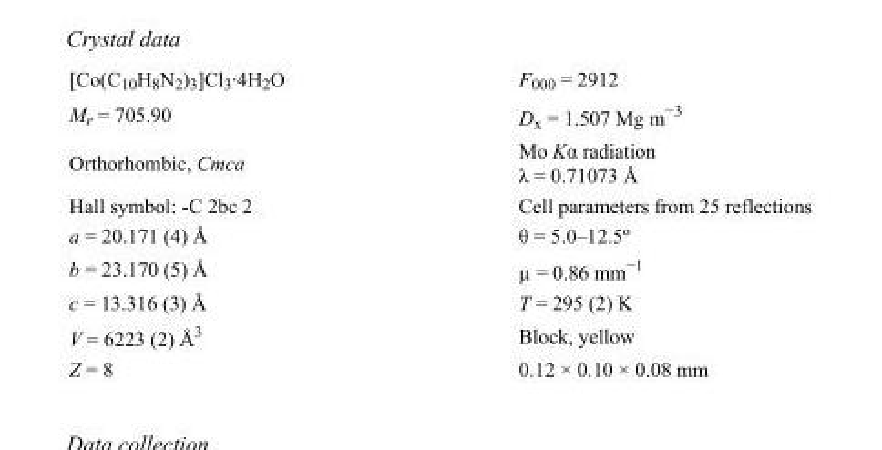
<table><tbody><tr><td>[Co(C<sub>10</sub>H<sub>8</sub>N<sub>2</sub>)<sub>3</sub>]Cl<sub>3</sub>·4H<sub>2</sub>O</td><td>F<sub>000</sub> = 2912</td></tr><tr><td>M<sub>r</sub> = 705.90</td><td>D<sub>x</sub> = 1.507 Mg m<sup>−3</sup></td></tr><tr><td>Orthorhombic, Cmca</td><td>Mo Kα radiation λ = 0.71073 Å</td></tr><tr><td>Hall symbol: -C 2bc 2</td><td>Cell parameters from 25 reflections</td></tr><tr><td>a = 20.171 (4) Å</td><td>θ = 5.0–12.5º</td></tr><tr><td>b = 23.170 (5) Å</td><td>µ = 0.86 mm<sup>−1</sup></td></tr><tr><td>c = 13.316 (3) Å</td><td>T = 295 (2) K</td></tr><tr><td>V = 6223 (2) Å<sup>3</sup></td><td>Block, yellow</td></tr><tr><td>Z = 8</td><td>0.12 × 0.10 × 0.08 mm</td></tr></tbody></table>